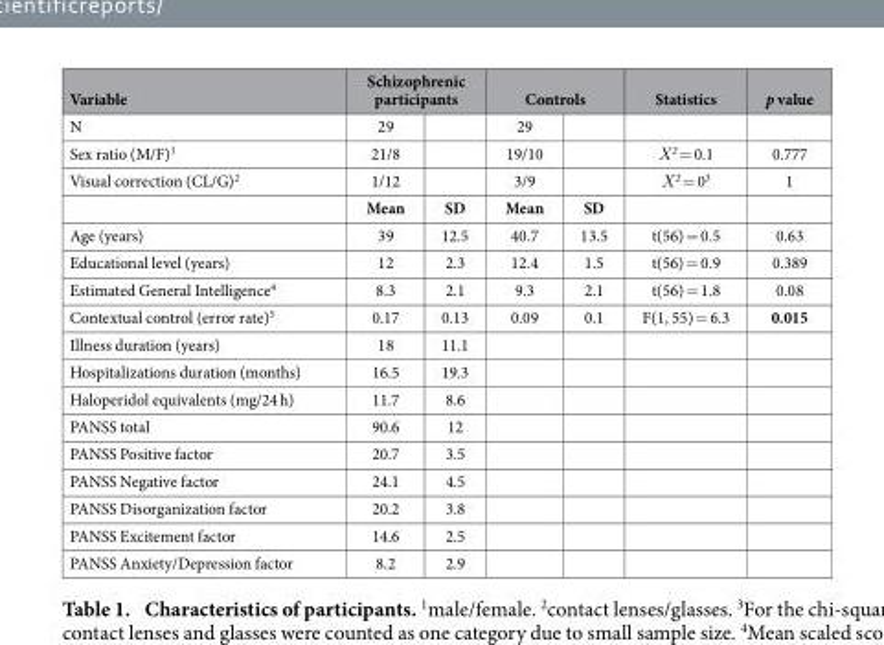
<table><thead><tr><td rowspan="2">Variable N</td><td colspan="2">Schizophrenic participants</td><td colspan="2">Controls</td><td rowspan="2">Statistics</td><td rowspan="2">p value</td></tr><tr><td>29</td><td></td><td>29</td><td></td></tr></thead><tbody><tr><td>Sex ratio (M/F)<sup>1</sup></td><td>21/8</td><td></td><td>19/10</td><td></td><td>Χ<sup>2</sup> = 0.1</td><td>0.777</td></tr><tr><td rowspan="2">Visual correction (CL/G)<sup>2</sup></td><td>1/12</td><td></td><td>3/9</td><td></td><td>Χ<sup>2</sup> = 0<sup>3</sup></td><td>1</td></tr><tr><td>Mean</td><td>SD</td><td>Mean</td><td>SD</td><td></td><td></td></tr><tr><td>Age (years)</td><td>39</td><td>12.5</td><td>40.7</td><td>13.5</td><td>t(56) = 0.5</td><td>0.63</td></tr><tr><td>Educational level (years)</td><td>12</td><td>2.3</td><td>12.4</td><td>1.5</td><td>t(56) = 0.9</td><td>0.389</td></tr><tr><td>Estimated General Intelligence<sup>4</sup></td><td>8.3</td><td>2.1</td><td>9.3</td><td>2.1</td><td>t(56) = 1.8</td><td>0.08</td></tr><tr><td>Contextual control (error rate)<sup>5</sup></td><td>0.17</td><td>0.13</td><td>0.09</td><td>0.1</td><td>F(1, 55) = 6.3</td><td>0.015</td></tr><tr><td>Illness duration (years)</td><td>18</td><td>11.1</td><td></td><td></td><td></td><td></td></tr><tr><td>Hospitalizations duration (months)</td><td>16.5</td><td>19.3</td><td></td><td></td><td></td><td></td></tr><tr><td>Haloperidol equivalents (mg/24 h)</td><td>11.7</td><td>8.6</td><td></td><td></td><td></td><td></td></tr><tr><td>PANSS total</td><td>90.6</td><td>12</td><td></td><td></td><td></td><td></td></tr><tr><td>PANSS Positive factor</td><td>20.7</td><td>3.5</td><td></td><td></td><td></td><td></td></tr><tr><td>PANSS Negative factor</td><td>24.1</td><td>4.5</td><td></td><td></td><td></td><td></td></tr><tr><td>PANSS Disorganization factor</td><td>20.2</td><td>3.8</td><td></td><td></td><td></td><td></td></tr><tr><td>PANSS Excitement factor</td><td>14.6</td><td>2.5</td><td></td><td></td><td></td><td></td></tr><tr><td>PANSS Anxiety/Depression factor</td><td>8.2</td><td>2.9</td><td></td><td></td><td></td><td></td></tr></tbody></table>